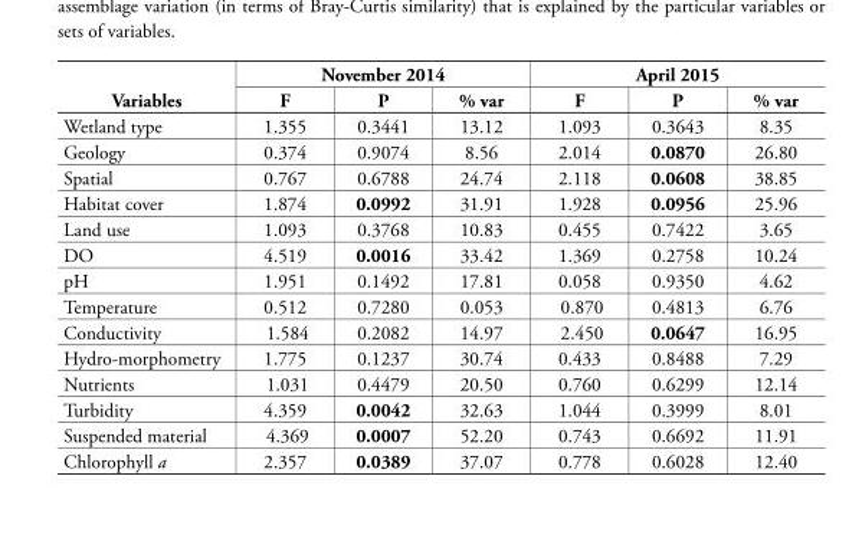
<table><thead><tr><td rowspan="2">Variables</td><td colspan="3">November 2014</td><td colspan="3">April 2015</td></tr><tr><td>F</td><td>P</td><td>% var</td><td>F</td><td>P</td><td>% var</td></tr></thead><tbody><tr><td>Wetland type</td><td>1.355</td><td>0.3441</td><td>13.12</td><td>1.093</td><td>0.3643</td><td>8.35</td></tr><tr><td>Geology</td><td>0.374</td><td>0.9074</td><td>8.56</td><td>2.014</td><td>0.0870</td><td>26.80</td></tr><tr><td>Spatial</td><td>0.767</td><td>0.6788</td><td>24.74</td><td>2.118</td><td>0.0608</td><td>38.85</td></tr><tr><td>Habitat cover</td><td>1.874</td><td>0.0992</td><td>31.91</td><td>1.928</td><td>0.0956</td><td>25.96</td></tr><tr><td>Land use</td><td>1.093</td><td>0.3768</td><td>10.83</td><td>0.455</td><td>0.7422</td><td>3.65</td></tr><tr><td>DO</td><td>4.519</td><td>0.0016</td><td>33.42</td><td>1.369</td><td>0.2758</td><td>10.24</td></tr><tr><td>pH</td><td>1.951</td><td>0.1492</td><td>17.81</td><td>0.058</td><td>0.9350</td><td>4.62</td></tr><tr><td>Temperature</td><td>0.512</td><td>0.7280</td><td>0.053</td><td>0.870</td><td>0.4813</td><td>6.76</td></tr><tr><td>Conductivity</td><td>1.584</td><td>0.2082</td><td>14.97</td><td>2.450</td><td>0.0647</td><td>16.95</td></tr><tr><td>Hydro-morphometry</td><td>1.775</td><td>0.1237</td><td>30.74</td><td>0.433</td><td>0.8488</td><td>7.29</td></tr><tr><td>Nutrients</td><td>1.031</td><td>0.4479</td><td>20.50</td><td>0.760</td><td>0.6299</td><td>12.14</td></tr><tr><td>Turbidity</td><td>4.359</td><td>0.0042</td><td>32.63</td><td>1.044</td><td>0.3999</td><td>8.01</td></tr><tr><td>Suspended material</td><td>4.369</td><td>0.0007</td><td>52.20</td><td>0.743</td><td>0.6692</td><td>11.91</td></tr><tr><td>Chlorophyll a</td><td>2.357</td><td>0.0389</td><td>37.07</td><td>0.778</td><td>0.6028</td><td>12.40</td></tr></tbody></table>